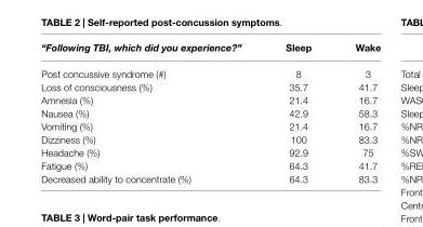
<table><thead><tr><td>“Following TBI, which did you experience?”</td><td>Sleep</td><td>Wake</td></tr></thead><tbody><tr><td>Post concussive syndrome (#)</td><td>8</td><td>3</td></tr><tr><td>Loss of consciousness (%)</td><td>35.7</td><td>41.7</td></tr><tr><td>Amnesia (%)</td><td>21.4</td><td>16.7</td></tr><tr><td>Nausea (%)</td><td>42.9</td><td>58.3</td></tr><tr><td>Vomiting (%)</td><td>21.4</td><td>16.7</td></tr><tr><td>Dizziness (%)</td><td>100</td><td>83.3</td></tr><tr><td>Headache (%)</td><td>92.9</td><td>75</td></tr><tr><td>Fatigue (%)</td><td>64.3</td><td>41.7</td></tr><tr><td>Decreased ability to concentrate (%)</td><td>64.3</td><td>83.3</td></tr></tbody></table>